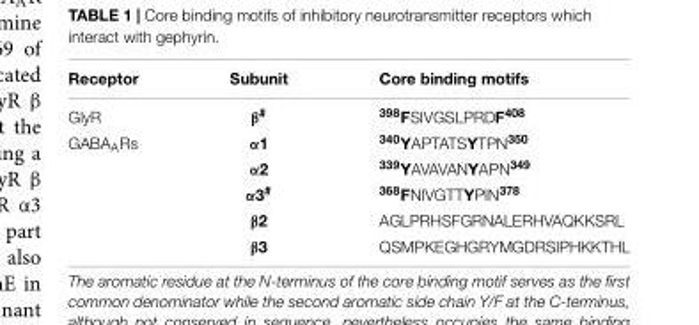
<table><thead><tr><td>Receptor</td><td>Subunit</td><td>Core binding motifs</td></tr></thead><tbody><tr><td>GlyR</td><td>β<sup>#</sup></td><td><sup>398</sup>FSIVGSLPRDF<sup>408</sup></td></tr><tr><td rowspan="5">GABA<sub>A</sub>Rs</td><td>α1</td><td><sup>340</sup>YAPTATSYTPN<sup>350</sup></td></tr><tr><td>α2</td><td><sup>339</sup>YAVAVANYAPN<sup>349</sup></td></tr><tr><td>α3<sup>#</sup></td><td><sup>368</sup>FNIVGTTYPIN<sup>378</sup></td></tr><tr><td>β2</td><td>AGLPRHSFGRNALERHVAQKKSRL</td></tr><tr><td>β3</td><td>QSMPKEGHGRYMGDRSIPHKKTHL</td></tr></tbody></table>